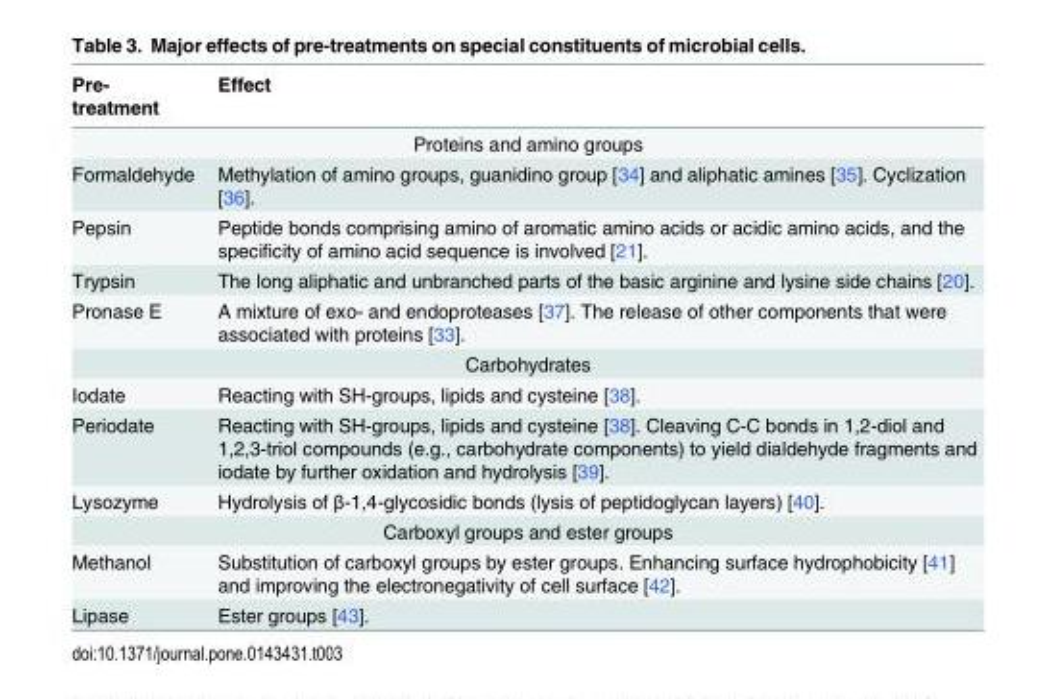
<table><thead><tr><td>Pre- treatment</td><td>Effect</td></tr></thead><tbody><tr><td colspan="2">Proteins and amino groups</td></tr><tr><td>Formaldehyde</td><td>Methylation of amino groups, guanidino group [34] and aliphatic amines [35]. Cyclization [36].</td></tr><tr><td>Pepsin</td><td>Peptide bonds comprising amino of aromatic amino acids or acidic amino acids, and the specificity of amino acid sequence is involved [21].</td></tr><tr><td>Trypsin</td><td>The long aliphatic and unbranched parts of the basic arginine and lysine side chains [20].</td></tr><tr><td>Pronase E</td><td>A mixture of exo- and endoproteases [37]. The release of other components that were associated with proteins [33].</td></tr><tr><td colspan="2">Carbohydrates</td></tr><tr><td>Iodate</td><td>Reacting with SH-groups, lipids and cysteine [38].</td></tr><tr><td>Periodate</td><td>Reacting with SH-groups, lipids and cysteine [38]. Cleaving C-C bonds in 1,2-diol and 1,2,3-triol compounds (e.g., carbohydrate components) to yield dialdehyde fragments and iodate by further oxidation and hydrolysis [39].</td></tr><tr><td>Lysozyme</td><td>Hydrolysis of β-1,4-glycosidic bonds (lysis of peptidoglycan layers) [40].</td></tr><tr><td colspan="2">Carboxyl groups and ester groups</td></tr><tr><td>Methanol</td><td>Substitution of carboxyl groups by ester groups. Enhancing surface hydrophobicity [41] and improving the electronegativity of cell surface [42].</td></tr><tr><td>Lipase</td><td>Ester groups [43].</td></tr></tbody></table>